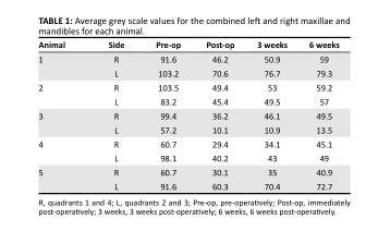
<table><thead><tr><td>Animal</td><td>Side</td><td>Pre-op</td><td>Post-op</td><td>3 weeks</td><td>6 weeks</td></tr></thead><tbody><tr><td rowspan="2">1</td><td>R</td><td>91.6</td><td>46.2</td><td>50.9</td><td>59</td></tr><tr><td>L</td><td>103.2</td><td>70.6</td><td>76.7</td><td>79.3</td></tr><tr><td rowspan="2">2</td><td>R</td><td>103.5</td><td>49.4</td><td>53</td><td>59.2</td></tr><tr><td>L</td><td>83.2</td><td>45.4</td><td>49.5</td><td>57</td></tr><tr><td rowspan="2">3</td><td>R</td><td>99.4</td><td>36.2</td><td>46.1</td><td>49.5</td></tr><tr><td>L</td><td>57.2</td><td>10.1</td><td>10.9</td><td>13.5</td></tr><tr><td rowspan="2">4</td><td>R</td><td>60.7</td><td>29.4</td><td>34.1</td><td>45.1</td></tr><tr><td>L</td><td>98.1</td><td>40.2</td><td>43</td><td>49</td></tr><tr><td rowspan="2">5</td><td>R</td><td>60.7</td><td>30.1</td><td>35</td><td>40.9</td></tr><tr><td>L</td><td>91.6</td><td>60.3</td><td>70.4</td><td>72.7</td></tr></tbody></table>